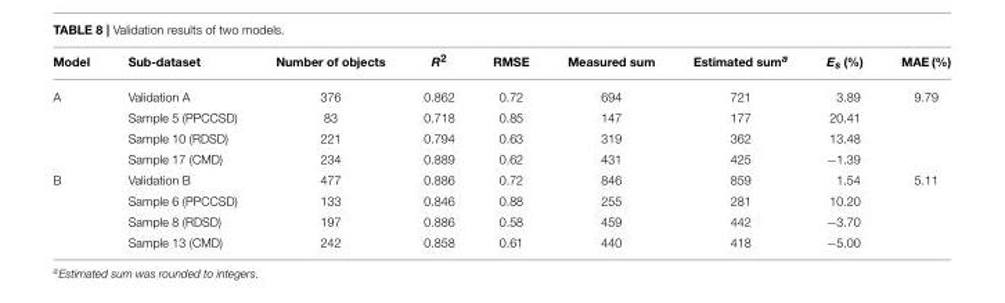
<table><thead><tr><td>Model</td><td>Sub-dataset</td><td>Number of objects</td><td>R<sup>2</sup></td><td>RMSE</td><td>Measured sum</td><td>Estimated sum<sup>a</sup></td><td>Es (%)</td><td>MAE (%)</td></tr></thead><tbody><tr><td rowspan="4">A</td><td>Validation A</td><td>376</td><td>0.862</td><td>0.72</td><td>694</td><td>721</td><td>3.89</td><td>9.79</td></tr><tr><td>Sample 5 (PPCCSD)</td><td>83</td><td>0.718</td><td>0.85</td><td>147</td><td>177</td><td>20.41</td><td></td></tr><tr><td>Sample 10 (RDSD)</td><td>221</td><td>0.794</td><td>0.63</td><td>319</td><td>362</td><td>13.48</td><td></td></tr><tr><td>Sample 17 (CMD)</td><td>234</td><td>0.889</td><td>0.62</td><td>431</td><td>425</td><td>−1.39</td><td></td></tr><tr><td rowspan="4">B</td><td>Validation B</td><td>477</td><td>0.886</td><td>0.72</td><td>846</td><td>859</td><td>1.54</td><td>5.11</td></tr><tr><td>Sample 6 (PPCCSD)</td><td>133</td><td>0.846</td><td>0.88</td><td>255</td><td>281</td><td>10.20</td><td></td></tr><tr><td>Sample 8 (RDSD)</td><td>197</td><td>0.886</td><td>0.58</td><td>459</td><td>442</td><td>−3.70</td><td></td></tr><tr><td>Sample 13 (CMD)</td><td>242</td><td>0.858</td><td>0.61</td><td>440</td><td>418</td><td>−5.00</td><td></td></tr></tbody></table>